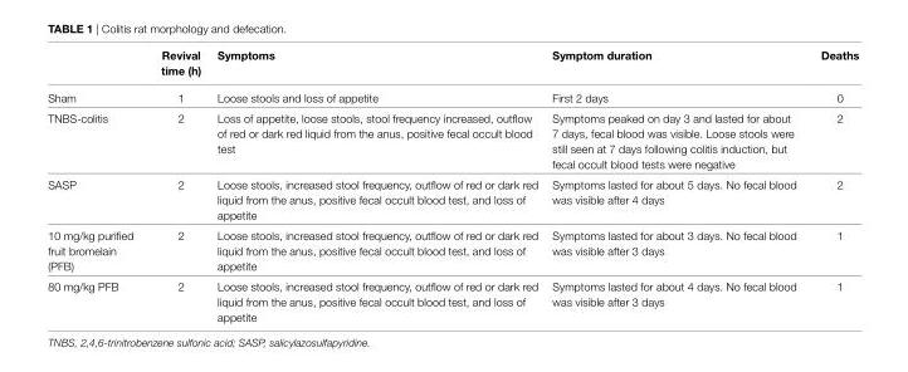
<table><thead><tr><td></td><td>revival time (h)</td><td>symptoms</td><td>symptom duration</td><td>Deaths</td></tr></thead><tbody><tr><td>Sham</td><td>1</td><td>Loose stools and loss of appetite</td><td>First 2 days</td><td>0</td></tr><tr><td>TNBS-colitis</td><td>2</td><td>Loss of appetite, loose stools, stool frequency increased, outflow of red or dark red liquid from the anus, positive fecal occult blood test</td><td>Symptoms peaked on day 3 and lasted for about 7 days, fecal blood was visible. Loose stools were still seen at 7 days following colitis induction, but fecal occult blood tests were negative</td><td>2</td></tr><tr><td>SASP</td><td>2</td><td>Loose stools, increased stool frequency, outflow of red or dark red liquid from the anus, positive fecal occult blood test, and loss of appetite</td><td>Symptoms lasted for about 5 days. No fecal blood was visible after 4 days</td><td>2</td></tr><tr><td>10 mg/kg purified fruit bromelain (PFB)</td><td>2</td><td>Loose stools, increased stool frequency, outflow of red or dark red liquid from the anus, positive fecal occult blood test, and loss of appetite</td><td>Symptoms lasted for about 3 days. No fecal blood was visible after 3 days</td><td>1</td></tr><tr><td>80 mg/kg PFB</td><td>2</td><td>Loose stools, increased stool frequency, outflow of red or dark red liquid from the anus, positive fecal occult blood test, and loss of appetite</td><td>Symptoms lasted for about 4 days. No fecal blood was visible after 3 days</td><td>1</td></tr></tbody></table>